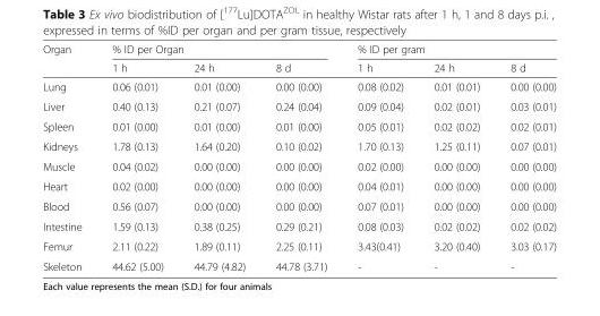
<table><thead><tr><td rowspan="2">Organ</td><td colspan="3">% ID per Organ</td><td colspan="3">% ID per gram</td></tr><tr><td>1 h</td><td>24 h</td><td>8 d</td><td>1 h</td><td>24 h</td><td>8 d</td></tr></thead><tbody><tr><td>Lung</td><td>0.06 (0.01)</td><td>0.01 (0.00)</td><td>0.00 (0.00)</td><td>0.08 (0.02)</td><td>0.01 (0.01)</td><td>0.00 (0.00)</td></tr><tr><td>Liver</td><td>0.40 (0.13)</td><td>0.21 (0.07)</td><td>0.24 (0.04)</td><td>0.09 (0.04)</td><td>0.02 (0.01)</td><td>0.03 (0.01)</td></tr><tr><td>Spleen</td><td>0.01 (0.00)</td><td>0.01 (0.00)</td><td>0.01 (0.00)</td><td>0.05 (0.01)</td><td>0.02 (0.02)</td><td>0.02 (0.01)</td></tr><tr><td>Kidneys</td><td>1.78 (0.13)</td><td>1.64 (0.20)</td><td>0.10 (0.02)</td><td>1.70 (0.13)</td><td>1.25 (0.11)</td><td>0.07 (0.01)</td></tr><tr><td>Muscle</td><td>0.04 (0.02)</td><td>0.00 (0.00)</td><td>0.00 (0.00)</td><td>0.02 (0.00)</td><td>0.00 (0.00)</td><td>0.00 (0.00)</td></tr><tr><td>Heart</td><td>0.02 (0.00)</td><td>0.00 (0.00)</td><td>0.00 (0.00)</td><td>0.04 (0.01)</td><td>0.00 (0.00)</td><td>0.00 (0.00)</td></tr><tr><td>Blood</td><td>0.56 (0.07)</td><td>0.00 (0.00)</td><td>0.00 (0.00)</td><td>0.07 (0.01)</td><td>0.00 (0.00)</td><td>0.00 (0.00)</td></tr><tr><td>Intestine</td><td>1.59 (0.13)</td><td>0.38 (0.25)</td><td>0.29 (0.21)</td><td>0.08 (0.03)</td><td>0.02 (0.02)</td><td>0.02 (0.02)</td></tr><tr><td>Femur</td><td>2.11 (0.22)</td><td>1.89 (0.11)</td><td>2.25 (0.11)</td><td>3.43(0.41)</td><td>3.20 (0.40)</td><td>3.03 (0.17)</td></tr><tr><td>Skeleton</td><td>44.62 (5.00)</td><td>44.79 (4.82)</td><td>44.78 (3.71)</td><td>-</td><td>-</td><td>-</td></tr></tbody></table>